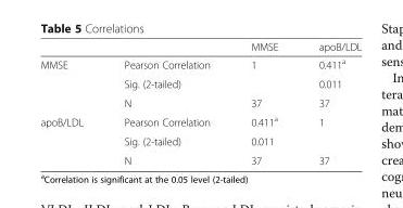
<table><thead><tr><td></td><td></td><td>MMSE</td><td>apoB/LDL</td></tr></thead><tbody><tr><td rowspan="3">MMSE</td><td>Pearson Correlation</td><td>1</td><td>0.411<sup>a</sup></td></tr><tr><td>Sig. (2-tailed)</td><td></td><td>0.011</td></tr><tr><td>N</td><td>37</td><td>37</td></tr><tr><td rowspan="3">apoB/LDL</td><td>Pearson Correlation</td><td>0.411<sup>a</sup></td><td>1</td></tr><tr><td>Sig. (2-tailed)</td><td>0.011</td><td></td></tr><tr><td>N</td><td>37</td><td>37</td></tr></tbody></table>